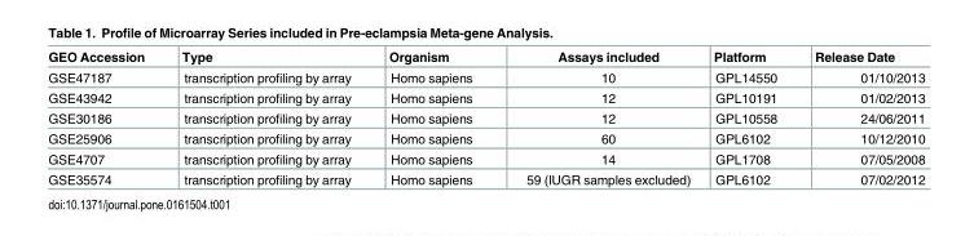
<table><thead><tr><td>GEO Accession</td><td>Type</td><td>Organism</td><td>Assays included</td><td>Platform</td><td>Release Date</td></tr></thead><tbody><tr><td>GSE47187</td><td>transcription profiling by array</td><td>Homo sapiens</td><td>10</td><td>GPL14550</td><td>01/10/2013</td></tr><tr><td>GSE43942</td><td>transcription profiling by array</td><td>Homo sapiens</td><td>12</td><td>GPL10191</td><td>01/02/2013</td></tr><tr><td>GSE30186</td><td>transcription profiling by array</td><td>Homo sapiens</td><td>12</td><td>GPL10558</td><td>24/06/2011</td></tr><tr><td>GSE25906</td><td>transcription profiling by array</td><td>Homo sapiens</td><td>60</td><td>GPL6102</td><td>10/12/2010</td></tr><tr><td>GSE4707</td><td>transcription profiling by array</td><td>Homo sapiens</td><td>14</td><td>GPL1708</td><td>07/05/2008</td></tr><tr><td>GSE35574</td><td>transcription profiling by array</td><td>Homo sapiens</td><td>59 (IUGR samples excluded)</td><td>GPL6102</td><td>07/02/2012</td></tr></tbody></table>